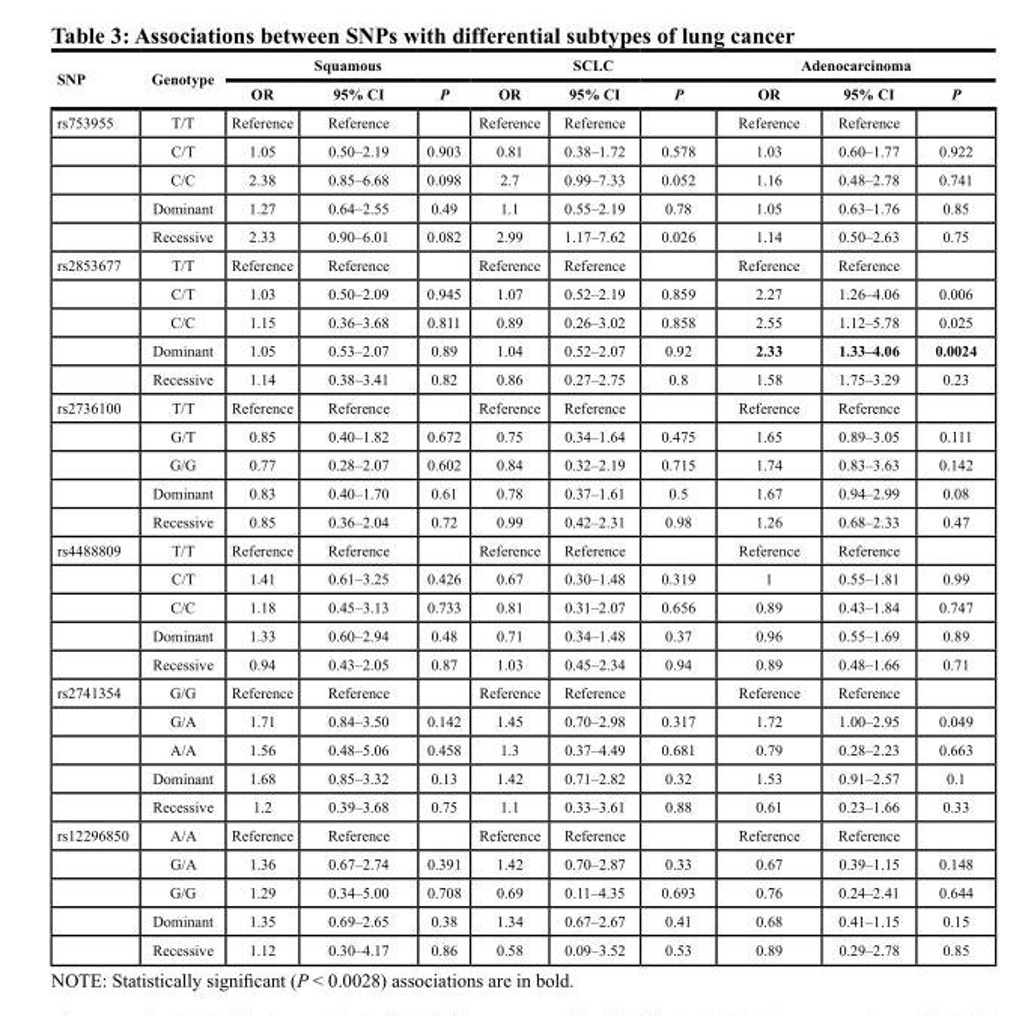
<table><thead><tr><td rowspan="2">snP</td><td rowspan="2">Genotype</td><td colspan="3">squamous</td><td colspan="3">sclc</td><td colspan="3">Adenocarcinoma</td></tr><tr><td>or</td><td>95% cI</td><td>P</td><td>or</td><td>95% cI</td><td>P</td><td>or</td><td>95% cI</td><td>P</td></tr></thead><tbody><tr><td rowspan="5">rs753955</td><td>T/T</td><td>Reference</td><td>Reference</td><td></td><td>Reference</td><td>Reference</td><td></td><td>Reference</td><td>Reference</td><td></td></tr><tr><td>C/T</td><td>1.05</td><td>0.50–2.19</td><td>0.903</td><td>0.81</td><td>0.38–1.72</td><td>0.578</td><td>1.03</td><td>0.60–1.77</td><td>0.922</td></tr><tr><td>C/C</td><td>2.38</td><td>0.85–6.68</td><td>0.098</td><td>2.7</td><td>0.99–7.33</td><td>0.052</td><td>1.16</td><td>0.48–2.78</td><td>0.741</td></tr><tr><td>Dominant</td><td>1.27</td><td>0.64–2.55</td><td>0.49</td><td>1.1</td><td>0.55–2.19</td><td>0.78</td><td>1.05</td><td>0.63–1.76</td><td>0.85</td></tr><tr><td>Recessive</td><td>2.33</td><td>0.90–6.01</td><td>0.082</td><td>2.99</td><td>1.17–7.62</td><td>0.026</td><td>1.14</td><td>0.50–2.63</td><td>0.75</td></tr><tr><td rowspan="5">rs2853677</td><td>T/T</td><td>Reference</td><td>Reference</td><td></td><td>Reference</td><td>Reference</td><td></td><td>Reference</td><td>Reference</td><td></td></tr><tr><td>C/T</td><td>1.03</td><td>0.50–2.09</td><td>0.945</td><td>1.07</td><td>0.52–2.19</td><td>0.859</td><td>2.27</td><td>1.26–4.06</td><td>0.006</td></tr><tr><td>C/C</td><td>1.15</td><td>0.36–3.68</td><td>0.811</td><td>0.89</td><td>0.26–3.02</td><td>0.858</td><td>2.55</td><td>1.12–5.78</td><td>0.025</td></tr><tr><td>Dominant</td><td>1.05</td><td>0.53–2.07</td><td>0.89</td><td>1.04</td><td>0.52–2.07</td><td>0.92</td><td>2.33</td><td>1.33–4.06</td><td>0.0024</td></tr><tr><td>Recessive</td><td>1.14</td><td>0.38–3.41</td><td>0.82</td><td>0.86</td><td>0.27–2.75</td><td>0.8</td><td>1.58</td><td>1.75–3.29</td><td>0.23</td></tr><tr><td rowspan="5">rs2736100</td><td>T/T</td><td>Reference</td><td>Reference</td><td></td><td>Reference</td><td>Reference</td><td></td><td>Reference</td><td>Reference</td><td></td></tr><tr><td>G/T</td><td>0.85</td><td>0.40–1.82</td><td>0.672</td><td>0.75</td><td>0.34–1.64</td><td>0.475</td><td>1.65</td><td>0.89–3.05</td><td>0.111</td></tr><tr><td>G/G</td><td>0.77</td><td>0.28–2.07</td><td>0.602</td><td>0.84</td><td>0.32–2.19</td><td>0.715</td><td>1.74</td><td>0.83–3.63</td><td>0.142</td></tr><tr><td>Dominant</td><td>0.83</td><td>0.40–1.70</td><td>0.61</td><td>0.78</td><td>0.37–1.61</td><td>0.5</td><td>1.67</td><td>0.94–2.99</td><td>0.08</td></tr><tr><td>Recessive</td><td>0.85</td><td>0.36–2.04</td><td>0.72</td><td>0.99</td><td>0.42–2.31</td><td>0.98</td><td>1.26</td><td>0.68–2.33</td><td>0.47</td></tr><tr><td rowspan="5">rs4488809</td><td>T/T</td><td>Reference</td><td>Reference</td><td></td><td>Reference</td><td>Reference</td><td></td><td>Reference</td><td>Reference</td><td></td></tr><tr><td>C/T</td><td>1.41</td><td>0.61–3.25</td><td>0.426</td><td>0.67</td><td>0.30–1.48</td><td>0.319</td><td>1</td><td>0.55–1.81</td><td>0.99</td></tr><tr><td>C/C</td><td>1.18</td><td>0.45–3.13</td><td>0.733</td><td>0.81</td><td>0.31–2.07</td><td>0.656</td><td>0.89</td><td>0.43–1.84</td><td>0.747</td></tr><tr><td>Dominant</td><td>1.33</td><td>0.60–2.94</td><td>0.48</td><td>0.71</td><td>0.34–1.48</td><td>0.37</td><td>0.96</td><td>0.55–1.69</td><td>0.89</td></tr><tr><td>Recessive</td><td>0.94</td><td>0.43–2.05</td><td>0.87</td><td>1.03</td><td>0.45–2.34</td><td>0.94</td><td>0.89</td><td>0.48–1.66</td><td>0.71</td></tr><tr><td rowspan="5">rs2741354</td><td>G/G</td><td>Reference</td><td>Reference</td><td></td><td>Reference</td><td>Reference</td><td></td><td>Reference</td><td>Reference</td><td></td></tr><tr><td>G/A</td><td>1.71</td><td>0.84–3.50</td><td>0.142</td><td>1.45</td><td>0.70–2.98</td><td>0.317</td><td>1.72</td><td>1.00–2.95</td><td>0.049</td></tr><tr><td>A/A</td><td>1.56</td><td>0.48–5.06</td><td>0.458</td><td>1.3</td><td>0.37–4.49</td><td>0.681</td><td>0.79</td><td>0.28–2.23</td><td>0.663</td></tr><tr><td>Dominant</td><td>1.68</td><td>0.85–3.32</td><td>0.13</td><td>1.42</td><td>0.71–2.82</td><td>0.32</td><td>1.53</td><td>0.91–2.57</td><td>0.1</td></tr><tr><td>Recessive</td><td>1.2</td><td>0.39–3.68</td><td>0.75</td><td>1.1</td><td>0.33–3.61</td><td>0.88</td><td>0.61</td><td>0.23–1.66</td><td>0.33</td></tr><tr><td rowspan="5">rs12296850</td><td>A/A</td><td>Reference</td><td>Reference</td><td></td><td>Reference</td><td>Reference</td><td></td><td>Reference</td><td>Reference</td><td></td></tr><tr><td>G/A</td><td>1.36</td><td>0.67–2.74</td><td>0.391</td><td>1.42</td><td>0.70–2.87</td><td>0.33</td><td>0.67</td><td>0.39–1.15</td><td>0.148</td></tr><tr><td>G/G</td><td>1.29</td><td>0.34–5.00</td><td>0.708</td><td>0.69</td><td>0.11–4.35</td><td>0.693</td><td>0.76</td><td>0.24–2.41</td><td>0.644</td></tr><tr><td>Dominant</td><td>1.35</td><td>0.69–2.65</td><td>0.38</td><td>1.34</td><td>0.67–2.67</td><td>0.41</td><td>0.68</td><td>0.41–1.15</td><td>0.15</td></tr><tr><td>Recessive</td><td>1.12</td><td>0.30–4.17</td><td>0.86</td><td>0.58</td><td>0.09–3.52</td><td>0.53</td><td>0.89</td><td>0.29–2.78</td><td>0.85</td></tr></tbody></table>